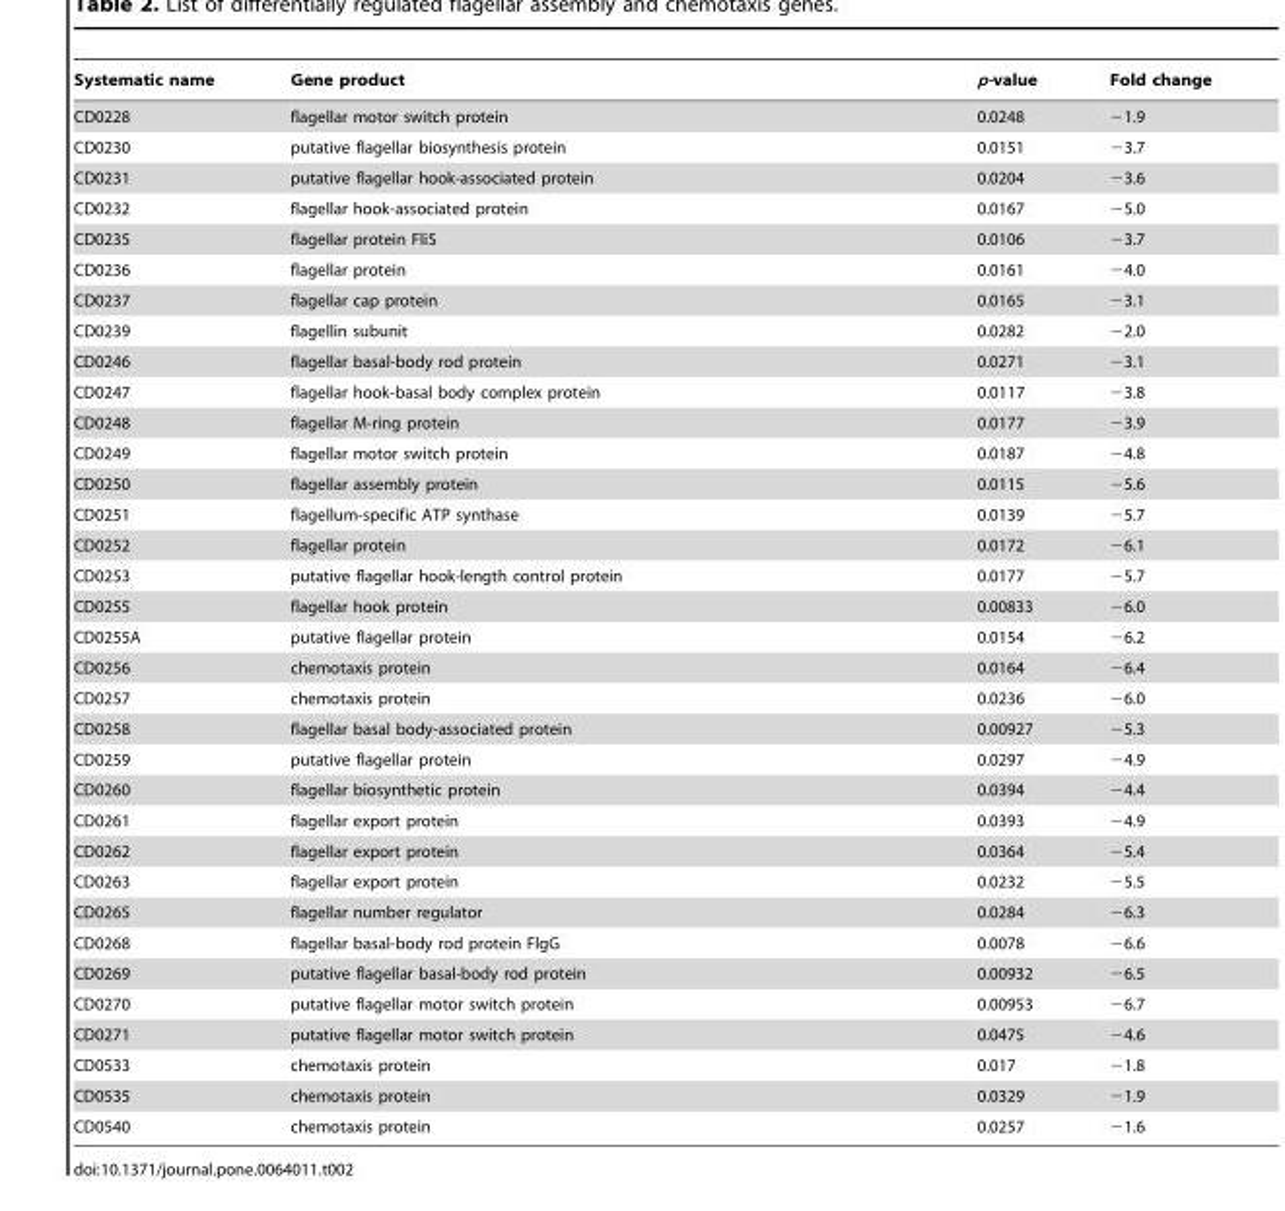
<table><thead><tr><td>Systematic name</td><td>Gene product</td><td>p-value</td><td>Fold change</td></tr></thead><tbody><tr><td>CD0228</td><td>flagellar motor switch protein</td><td>0.0248</td><td>−1.9</td></tr><tr><td>CD0230</td><td>putative flagellar biosynthesis protein</td><td>0.0151</td><td>−3.7</td></tr><tr><td>CD0231</td><td>putative flagellar hook-associated protein</td><td>0.0204</td><td>−3.6</td></tr><tr><td>CD0232</td><td>flagellar hook-associated protein</td><td>0.0167</td><td>−5.0</td></tr><tr><td>CD0235</td><td>flagellar protein FliS</td><td>0.0106</td><td>−3.7</td></tr><tr><td>CD0236</td><td>flagellar protein</td><td>0.0161</td><td>−4.0</td></tr><tr><td>CD0237</td><td>flagellar cap protein</td><td>0.0165</td><td>−3.1</td></tr><tr><td>CD0239</td><td>flagellin subunit</td><td>0.0282</td><td>−2.0</td></tr><tr><td>CD0246</td><td>flagellar basal-body rod protein</td><td>0.0271</td><td>−3.1</td></tr><tr><td>CD0247</td><td>flagellar hook-basal body complex protein</td><td>0.0117</td><td>−3.8</td></tr><tr><td>CD0248</td><td>flagellar M-ring protein</td><td>0.0177</td><td>−3.9</td></tr><tr><td>CD0249</td><td>flagellar motor switch protein</td><td>0.0187</td><td>−4.8</td></tr><tr><td>CD0250</td><td>flagellar assembly protein</td><td>0.0115</td><td>−5.6</td></tr><tr><td>CD0251</td><td>flagellum-specific ATP synthase</td><td>0.0139</td><td>−5.7</td></tr><tr><td>CD0252</td><td>flagellar protein</td><td>0.0172</td><td>−6.1</td></tr><tr><td>CD0253</td><td>putative flagellar hook-length control protein</td><td>0.0177</td><td>−5.7</td></tr><tr><td>CD0255</td><td>flagellar hook protein</td><td>0.00833</td><td>−6.0</td></tr><tr><td>CD0255A</td><td>putative flagellar protein</td><td>0.0154</td><td>−6.2</td></tr><tr><td>CD0256</td><td>chemotaxis protein</td><td>0.0164</td><td>−6.4</td></tr><tr><td>CD0257</td><td>chemotaxis protein</td><td>0.0236</td><td>−6.0</td></tr><tr><td>CD0258</td><td>flagellar basal body-associated protein</td><td>0.00927</td><td>−5.3</td></tr><tr><td>CD0259</td><td>putative flagellar protein</td><td>0.0297</td><td>−4.9</td></tr><tr><td>CD0260</td><td>flagellar biosynthetic protein</td><td>0.0394</td><td>−4.4</td></tr><tr><td>CD0261</td><td>flagellar export protein</td><td>0.0393</td><td>−4.9</td></tr><tr><td>CD0262</td><td>flagellar export protein</td><td>0.0364</td><td>−5.4</td></tr><tr><td>CD0263</td><td>flagellar export protein</td><td>0.0232</td><td>−5.5</td></tr><tr><td>CD0265</td><td>flagellar number regulator</td><td>0.0284</td><td>−6.3</td></tr><tr><td>CD0268</td><td>flagellar basal-body rod protein FlgG</td><td>0.0078</td><td>−6.6</td></tr><tr><td>CD0269</td><td>putative flagellar basal-body rod protein</td><td>0.00932</td><td>−6.5</td></tr><tr><td>CD0270</td><td>putative flagellar motor switch protein</td><td>0.00953</td><td>−6.7</td></tr><tr><td>CD0271</td><td>putative flagellar motor switch protein</td><td>0.0475</td><td>−4.6</td></tr><tr><td>CD0533</td><td>chemotaxis protein</td><td>0.017</td><td>−1.8</td></tr><tr><td>CD0535</td><td>chemotaxis protein</td><td>0.0329</td><td>−1.9</td></tr><tr><td>CD0540</td><td>chemotaxis protein</td><td>0.0257</td><td>−1.6</td></tr></tbody></table>